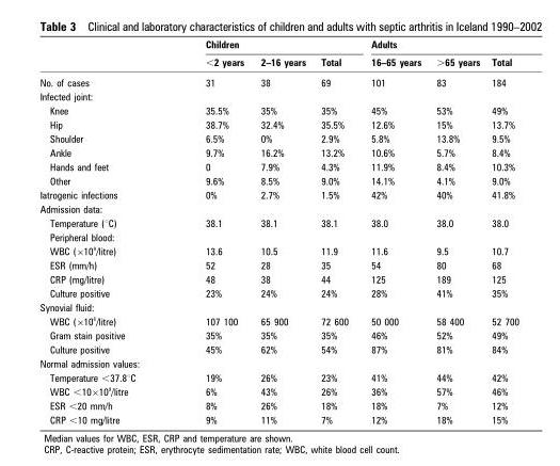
<table><thead><tr><td rowspan="2"></td><td colspan="3">Children</td><td colspan="3">Adults</td></tr><tr><td>&lt;2 years</td><td>2–16 years</td><td>Total</td><td>16–65 years</td><td>&gt;65 years</td><td>Total</td></tr></thead><tbody><tr><td>No. of cases</td><td>31</td><td>38</td><td>69</td><td>101</td><td>83</td><td>184</td></tr><tr><td colspan="7">Infected joint:</td></tr><tr><td>Knee</td><td>35.5%</td><td>35%</td><td>35%</td><td>45%</td><td>53%</td><td>49%</td></tr><tr><td>Hip</td><td>38.7%</td><td>32.4%</td><td>35.5%</td><td>12.6%</td><td>15%</td><td>13.7%</td></tr><tr><td>Shoulder</td><td>6.5%</td><td>0%</td><td>2.9%</td><td>5.8%</td><td>13.8%</td><td>9.5%</td></tr><tr><td>Ankle</td><td>9.7%</td><td>16.2%</td><td>13.2%</td><td>10.6%</td><td>5.7%</td><td>8.4%</td></tr><tr><td>Hands and feet</td><td>0</td><td>7.9%</td><td>4.3%</td><td>11.9%</td><td>8.4%</td><td>10.3%</td></tr><tr><td>Other</td><td>9.6%</td><td>8.5%</td><td>9.0%</td><td>14.1%</td><td>4.1%</td><td>9.0%</td></tr><tr><td>Iatrogenic infections</td><td>0%</td><td>2.7%</td><td>1.5%</td><td>42%</td><td>40%</td><td>41.8%</td></tr><tr><td colspan="7">Admission data:</td></tr><tr><td>Temperature (°C)</td><td>38.1</td><td>38.1</td><td>38.1</td><td>38.0</td><td>38.0</td><td>38.0</td></tr><tr><td colspan="7">Peripheral blood:</td></tr><tr><td>WBC (×10 <sup>9</sup>/litre)</td><td>13.6</td><td>10.5</td><td>11.9</td><td>11.6</td><td>9.5</td><td>10.7</td></tr><tr><td>ESR (mm/h)</td><td>52</td><td>28</td><td>35</td><td>54</td><td>80</td><td>68</td></tr><tr><td>CRP (mg/litre)</td><td>48</td><td>38</td><td>44</td><td>125</td><td>189</td><td>125</td></tr><tr><td>Culture positive</td><td>23%</td><td>24%</td><td>24%</td><td>28%</td><td>41%</td><td>35%</td></tr><tr><td colspan="7">Synovial fluid:</td></tr><tr><td>WBC (×10 <sup>6</sup>/litre)</td><td>107 100</td><td>65 900</td><td>72 600</td><td>50 000</td><td>58 400</td><td>52 700</td></tr><tr><td>Gram stain positive</td><td>35%</td><td>35%</td><td>35%</td><td>46%</td><td>52%</td><td>49%</td></tr><tr><td>Culture positive</td><td>45%</td><td>62%</td><td>54%</td><td>87%</td><td>81%</td><td>84%</td></tr><tr><td colspan="7">Normal admission values:</td></tr><tr><td>Temperature &lt;37.8°C</td><td>19%</td><td>26%</td><td>23%</td><td>41%</td><td>44%</td><td>42%</td></tr><tr><td>WBC &lt;10×10 <sup>9</sup>/litre</td><td>6%</td><td>43%</td><td>26%</td><td>36%</td><td>57%</td><td>46%</td></tr><tr><td>ESR &lt;20 mm/h</td><td>8%</td><td>26%</td><td>18%</td><td>18%</td><td>7%</td><td>12%</td></tr><tr><td>CRP &lt;10 mg/litre</td><td>9%</td><td>11%</td><td>7%</td><td>12%</td><td>18%</td><td>15%</td></tr></tbody></table>